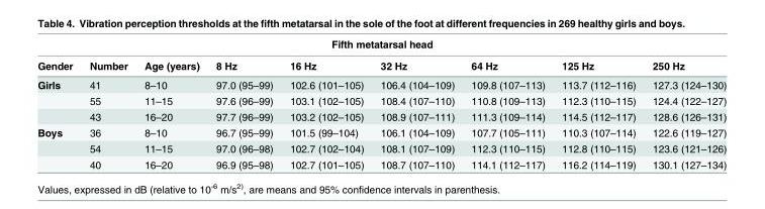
<table><thead><tr><td colspan="9">Fifth metatarsal head</td></tr><tr><td>Gender</td><td>Number</td><td>Age (years)</td><td>8 Hz</td><td>16 Hz</td><td>32 Hz</td><td>64 Hz</td><td>125 Hz</td><td>250 Hz</td></tr></thead><tbody><tr><td rowspan="3">Girls</td><td>41</td><td>8–10</td><td>97.0 (95–99)</td><td>102.6 (101–105)</td><td>106.4 (104–109)</td><td>109.8 (107–113)</td><td>113.7 (112–116)</td><td>127.3 (124–130)</td></tr><tr><td>55</td><td>11–15</td><td>97.6 (96–99)</td><td>103.1 (102–105)</td><td>108.4 (107–110)</td><td>110.8 (109–113)</td><td>112.3 (110–115)</td><td>124.4 (122–127)</td></tr><tr><td>43</td><td>16–20</td><td>97.7 (96–99)</td><td>103.2 (102–105)</td><td>108.9 (107–111)</td><td>111.3 (109–114)</td><td>114.5 (112–117)</td><td>128.6 (126–131)</td></tr><tr><td rowspan="3">Boys</td><td>36</td><td>8–10</td><td>96.7 (95–99)</td><td>101.5 (99–104)</td><td>106.1 (104–109)</td><td>107.7 (105–111)</td><td>110.3 (107–114)</td><td>122.6 (119–127)</td></tr><tr><td>54</td><td>11–15</td><td>97.0 (96–98)</td><td>102.7 (102–104)</td><td>108.1 (107–109)</td><td>112.3 (110–115)</td><td>112.8 (110–115)</td><td>123.6 (121–126)</td></tr><tr><td>40</td><td>16–20</td><td>96.9 (95–98)</td><td>102.7 (101–105)</td><td>108.7 (107–110)</td><td>114.1 (112–117)</td><td>116.2 (114–119)</td><td>130.1 (127–134)</td></tr></tbody></table>